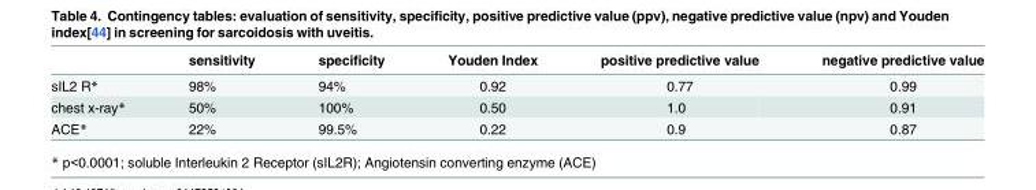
<table><thead><tr><td></td><td>sensitivity</td><td>specificity</td><td>Youden Index</td><td>positive predictive value</td><td>negative predictive value</td></tr></thead><tbody><tr><td>sIL2 R*</td><td>98%</td><td>94%</td><td>0.92</td><td>0.77</td><td>0.99</td></tr><tr><td>chest x-ray*</td><td>50%</td><td>100%</td><td>0.50</td><td>1.0</td><td>0.91</td></tr><tr><td>ACE*</td><td>22%</td><td>99.5%</td><td>0.22</td><td>0.9</td><td>0.87</td></tr></tbody></table>